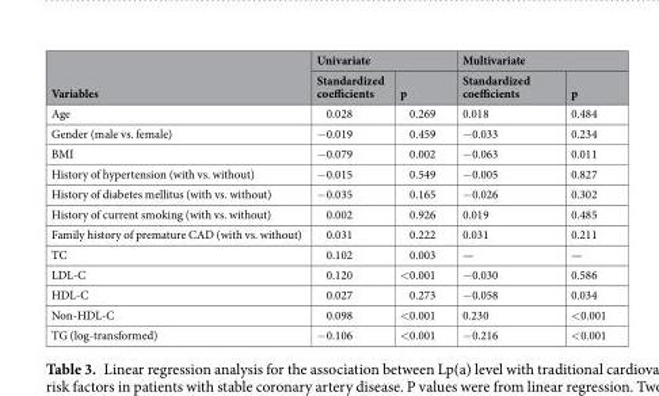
<table><thead><tr><td rowspan="2">Variables</td><td colspan="2">Univariate</td><td colspan="2">Multivariate</td></tr><tr><td>Standardized coefficients</td><td>p</td><td>Standardized coefficients</td><td>p</td></tr></thead><tbody><tr><td>Age</td><td>0.028</td><td>0.269</td><td>0.018</td><td>0.484</td></tr><tr><td>Gender (male vs. female)</td><td>−0.019</td><td>0.459</td><td>−0.033</td><td>0.234</td></tr><tr><td>BMI</td><td>−0.079</td><td>0.002</td><td>−0.063</td><td>0.011</td></tr><tr><td>History of hypertension (with vs. without)</td><td>−0.015</td><td>0.549</td><td>−0.005</td><td>0.827</td></tr><tr><td>History of diabetes mellitus (with vs. without)</td><td>−0.035</td><td>0.165</td><td>−0.026</td><td>0.302</td></tr><tr><td>History of current smoking (with vs. without)</td><td>0.002</td><td>0.926</td><td>0.019</td><td>0.485</td></tr><tr><td>Family history of premature CAD (with vs. without)</td><td>0.031</td><td>0.222</td><td>0.031</td><td>0.211</td></tr><tr><td>TC</td><td>0.102</td><td>0.003</td><td>—</td><td>—</td></tr><tr><td>LDL-C</td><td>0.120</td><td>&lt;0.001</td><td>−0.030</td><td>0.586</td></tr><tr><td>HDL-C</td><td>0.027</td><td>0.273</td><td>−0.058</td><td>0.034</td></tr><tr><td>Non-HDL-C</td><td>0.098</td><td>&lt;0.001</td><td>0.230</td><td>&lt;0.001</td></tr><tr><td>TG (log-transformed)</td><td>−0.106</td><td>&lt;0.001</td><td>−0.216</td><td>&lt;0.001</td></tr></tbody></table>